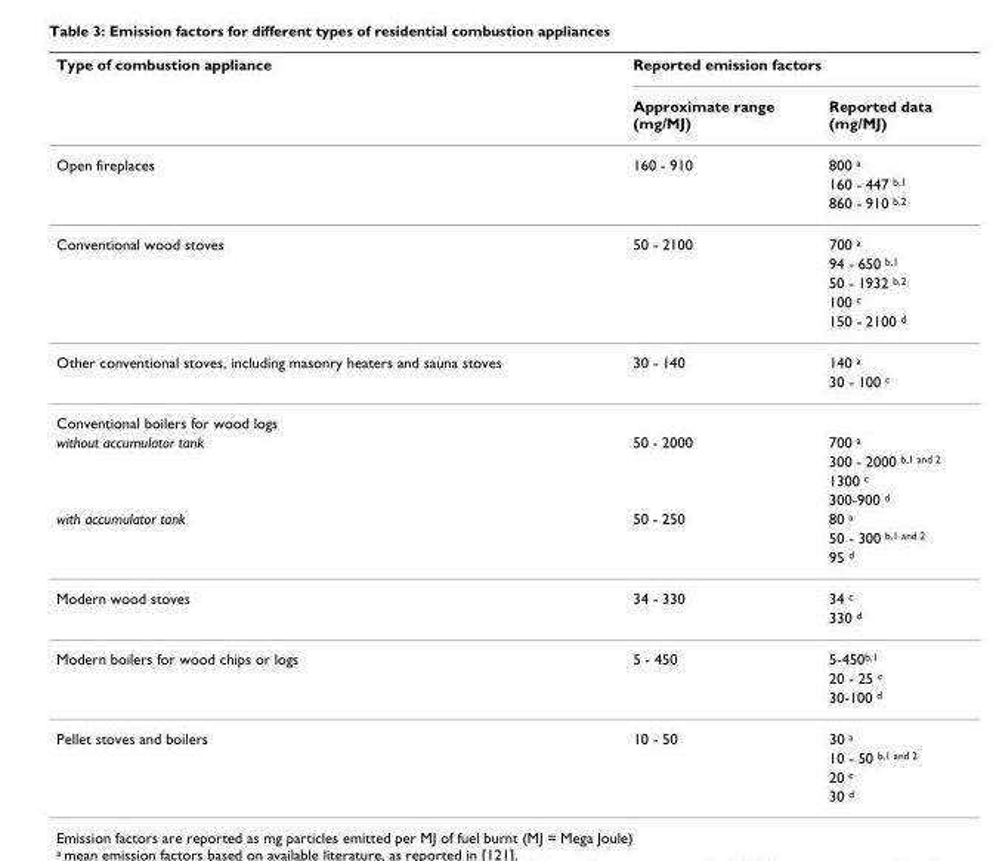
<table><thead><tr><td rowspan="2">Type of combustion appliance</td><td colspan="2">Reported emission factors</td></tr><tr><td>Approximate range (mg/MJ)</td><td>Reported data (mg/MJ)</td></tr></thead><tbody><tr><td rowspan="3">Open fireplaces</td><td>160 - 910</td><td>800 <sup>a</sup></td></tr><tr><td></td><td>160 - 447 <sup>b,1</sup></td></tr><tr><td></td><td>860 - 910 <sup>b,2</sup></td></tr><tr><td rowspan="5">Conventional wood stoves</td><td>50 - 2100</td><td>700 <sup>a</sup></td></tr><tr><td></td><td>94 - 650 <sup>b,1</sup></td></tr><tr><td></td><td>50 - 1932 <sup>b,2</sup></td></tr><tr><td></td><td>100 <sup>c</sup></td></tr><tr><td></td><td>150 - 2100 <sup>d</sup></td></tr><tr><td rowspan="2">Other conventional stoves, including masonry heaters and sauna stoves</td><td>30 - 140</td><td>140 <sup>a</sup></td></tr><tr><td></td><td>30 - 100 <sup>c</sup></td></tr><tr><td colspan="3">Conventional boilers for wood logs</td></tr><tr><td rowspan="4">without accumulator tank</td><td>50 - 2000</td><td>700 <sup>a</sup></td></tr><tr><td></td><td>300 - 2000 <sup>b,1 and 2</sup></td></tr><tr><td></td><td>1300 <sup>c</sup></td></tr><tr><td></td><td>300-900 <sup>d</sup></td></tr><tr><td rowspan="3">with accumulator tank</td><td>50 - 250</td><td>80 <sup>a</sup></td></tr><tr><td></td><td>50 - 300 <sup>b,1 and 2</sup></td></tr><tr><td></td><td>95 <sup>d</sup></td></tr><tr><td rowspan="2">Modern wood stoves</td><td>34 - 330</td><td>34 <sup>c</sup></td></tr><tr><td></td><td>330 <sup>d</sup></td></tr><tr><td rowspan="3">Modern boilers for wood chips or logs</td><td>5 - 450</td><td>5-450<sup>b,1</sup></td></tr><tr><td></td><td>20 - 25 <sup>c</sup></td></tr><tr><td></td><td>30-100 <sup>d</sup></td></tr><tr><td rowspan="4">Pellet stoves and boilers</td><td>10 - 50</td><td>30 <sup>a</sup></td></tr><tr><td></td><td>10 - 50 <sup>b,1 and 2</sup></td></tr><tr><td></td><td>20 <sup>c</sup></td></tr><tr><td></td><td>30 <sup>d</sup></td></tr></tbody></table>